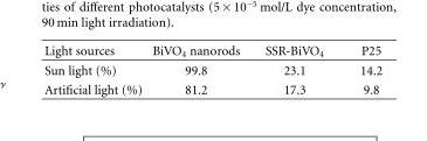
<table><thead><tr><td>Light sources</td><td>BiVO<sub>4</sub> nanorods</td><td>SSR-BiVO<sub>4</sub></td><td>P25</td></tr></thead><tbody><tr><td>Sun light (%)</td><td>99.8</td><td>23.1</td><td>14.2</td></tr><tr><td>Artificial light (%)</td><td>81.2</td><td>17.3</td><td>9.8</td></tr></tbody></table>